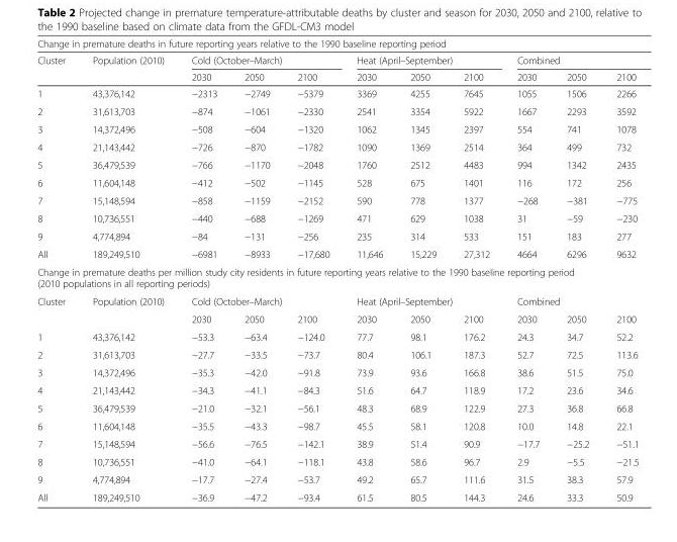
<table><thead><tr><td colspan="11">Change in premature deaths in future reporting years relative to the 1990 baseline reporting period</td></tr><tr><td rowspan="2">Cluster</td><td rowspan="2">Population (2010)</td><td colspan="3">Cold (October–March)</td><td colspan="3">Heat (April–September)</td><td colspan="3">Combined</td></tr><tr><td>2030</td><td>2050</td><td>2100</td><td>2030</td><td>2050</td><td>2100</td><td>2030</td><td>2050</td><td>2100</td></tr></thead><tbody><tr><td>1</td><td>43,376,142</td><td>−2313</td><td>−2749</td><td>−5379</td><td>3369</td><td>4255</td><td>7645</td><td>1055</td><td>1506</td><td>2266</td></tr><tr><td>2</td><td>31,613,703</td><td>−874</td><td>−1061</td><td>−2330</td><td>2541</td><td>3354</td><td>5922</td><td>1667</td><td>2293</td><td>3592</td></tr><tr><td>3</td><td>14,372,496</td><td>−508</td><td>−604</td><td>−1320</td><td>1062</td><td>1345</td><td>2397</td><td>554</td><td>741</td><td>1078</td></tr><tr><td>4</td><td>21,143,442</td><td>−726</td><td>−870</td><td>−1782</td><td>1090</td><td>1369</td><td>2514</td><td>364</td><td>499</td><td>732</td></tr><tr><td>5</td><td>36,479,539</td><td>−766</td><td>−1170</td><td>−2048</td><td>1760</td><td>2512</td><td>4483</td><td>994</td><td>1342</td><td>2435</td></tr><tr><td>6</td><td>11,604,148</td><td>−412</td><td>−502</td><td>−1145</td><td>528</td><td>675</td><td>1401</td><td>116</td><td>172</td><td>256</td></tr><tr><td>7</td><td>15,148,594</td><td>−858</td><td>−1159</td><td>−2152</td><td>590</td><td>778</td><td>1377</td><td>−268</td><td>−381</td><td>−775</td></tr><tr><td>8</td><td>10,736,551</td><td>−440</td><td>−688</td><td>−1269</td><td>471</td><td>629</td><td>1038</td><td>31</td><td>−59</td><td>−230</td></tr><tr><td>9</td><td>4,774,894</td><td>−84</td><td>−131</td><td>−256</td><td>235</td><td>314</td><td>533</td><td>151</td><td>183</td><td>277</td></tr><tr><td>All</td><td>189,249,510</td><td>−6981</td><td>−8933</td><td>−17,680</td><td>11,646</td><td>15,229</td><td>27,312</td><td>4664</td><td>6296</td><td>9632</td></tr><tr><td colspan="11">Change in premature deaths per million study city residents in future reporting years relative to the 1990 baseline reporting period (2010 populations in all reporting periods)</td></tr><tr><td rowspan="2">Cluster</td><td rowspan="2">Population (2010)</td><td colspan="3">Cold (October–March)</td><td colspan="3">Heat (April–September)</td><td colspan="3">Combined</td></tr><tr><td>2030</td><td>2050</td><td>2100</td><td>2030</td><td>2050</td><td>2100</td><td>2030</td><td>2050</td><td>2100</td></tr><tr><td>1</td><td>43,376,142</td><td>−53.3</td><td>−63.4</td><td>−124.0</td><td>77.7</td><td>98.1</td><td>176.2</td><td>24.3</td><td>34.7</td><td>52.2</td></tr><tr><td>2</td><td>31,613,703</td><td>−27.7</td><td>−33.5</td><td>−73.7</td><td>80.4</td><td>106.1</td><td>187.3</td><td>52.7</td><td>72.5</td><td>113.6</td></tr><tr><td>3</td><td>14,372,496</td><td>−35.3</td><td>−42.0</td><td>−91.8</td><td>73.9</td><td>93.6</td><td>166.8</td><td>38.6</td><td>51.5</td><td>75.0</td></tr><tr><td>4</td><td>21,143,442</td><td>−34.3</td><td>−41.1</td><td>−84.3</td><td>51.6</td><td>64.7</td><td>118.9</td><td>17.2</td><td>23.6</td><td>34.6</td></tr><tr><td>5</td><td>36,479,539</td><td>−21.0</td><td>−32.1</td><td>−56.1</td><td>48.3</td><td>68.9</td><td>122.9</td><td>27.3</td><td>36.8</td><td>66.8</td></tr><tr><td>6</td><td>11,604,148</td><td>−35.5</td><td>−43.3</td><td>−98.7</td><td>45.5</td><td>58.1</td><td>120.8</td><td>10.0</td><td>14.8</td><td>22.1</td></tr><tr><td>7</td><td>15,148,594</td><td>−56.6</td><td>−76.5</td><td>−142.1</td><td>38.9</td><td>51.4</td><td>90.9</td><td>−17.7</td><td>−25.2</td><td>−51.1</td></tr><tr><td>8</td><td>10,736,551</td><td>−41.0</td><td>−64.1</td><td>−118.1</td><td>43.8</td><td>58.6</td><td>96.7</td><td>2.9</td><td>−5.5</td><td>−21.5</td></tr><tr><td>9</td><td>4,774,894</td><td>−17.7</td><td>−27.4</td><td>−53.7</td><td>49.2</td><td>65.7</td><td>111.6</td><td>31.5</td><td>38.3</td><td>57.9</td></tr><tr><td>All</td><td>189,249,510</td><td>−36.9</td><td>−47.2</td><td>−93.4</td><td>61.5</td><td>80.5</td><td>144.3</td><td>24.6</td><td>33.3</td><td>50.9</td></tr></tbody></table>